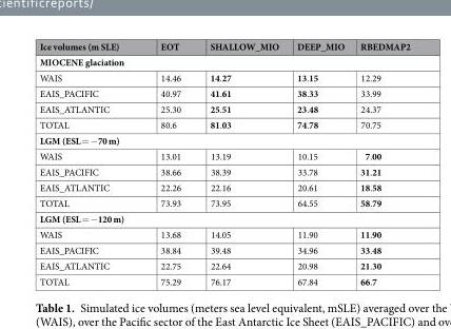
<table><thead><tr><td>Ice volumes (m SLE)</td><td>EOT</td><td>SHALLOW_MIO</td><td>DEEP_MIO</td><td>RBEDMAP2</td></tr></thead><tbody><tr><td colspan="5">MIOCENE glaciation</td></tr><tr><td>WAIS</td><td>14.46</td><td>14.27</td><td>13.15</td><td>12.29</td></tr><tr><td>EAIS_PACIFIC</td><td>40.97</td><td>41.61</td><td>38.33</td><td>33.99</td></tr><tr><td>EAIS_ATLANTIC</td><td>25.30</td><td>25.51</td><td>23.48</td><td>24.37</td></tr><tr><td>TOTAL</td><td>80.6</td><td>81.03</td><td>74.78</td><td>70.75</td></tr><tr><td colspan="5">LGM (ESL = −70 m)</td></tr><tr><td>WAIS</td><td>13.01</td><td>13.19</td><td>10.15</td><td>7.00</td></tr><tr><td>EAIS_PACIFIC</td><td>38.66</td><td>38.39</td><td>33.78</td><td>31.21</td></tr><tr><td>EAIS_ATLANTIC</td><td>22.26</td><td>22.16</td><td>20.61</td><td>18.58</td></tr><tr><td>TOTAL</td><td>73.93</td><td>73.95</td><td>64.55</td><td>58.79</td></tr><tr><td colspan="5">LGM (ESL = −120 m)</td></tr><tr><td>WAIS</td><td>13.68</td><td>14.05</td><td>11.90</td><td>11.90</td></tr><tr><td>EAIS_PACIFIC</td><td>38.84</td><td>39.48</td><td>34.96</td><td>33.48</td></tr><tr><td>EAIS_ATLANTIC</td><td>22.75</td><td>22.64</td><td>20.98</td><td>21.30</td></tr><tr><td>TOTAL</td><td>75.29</td><td>76.17</td><td>67.84</td><td>66.7</td></tr></tbody></table>